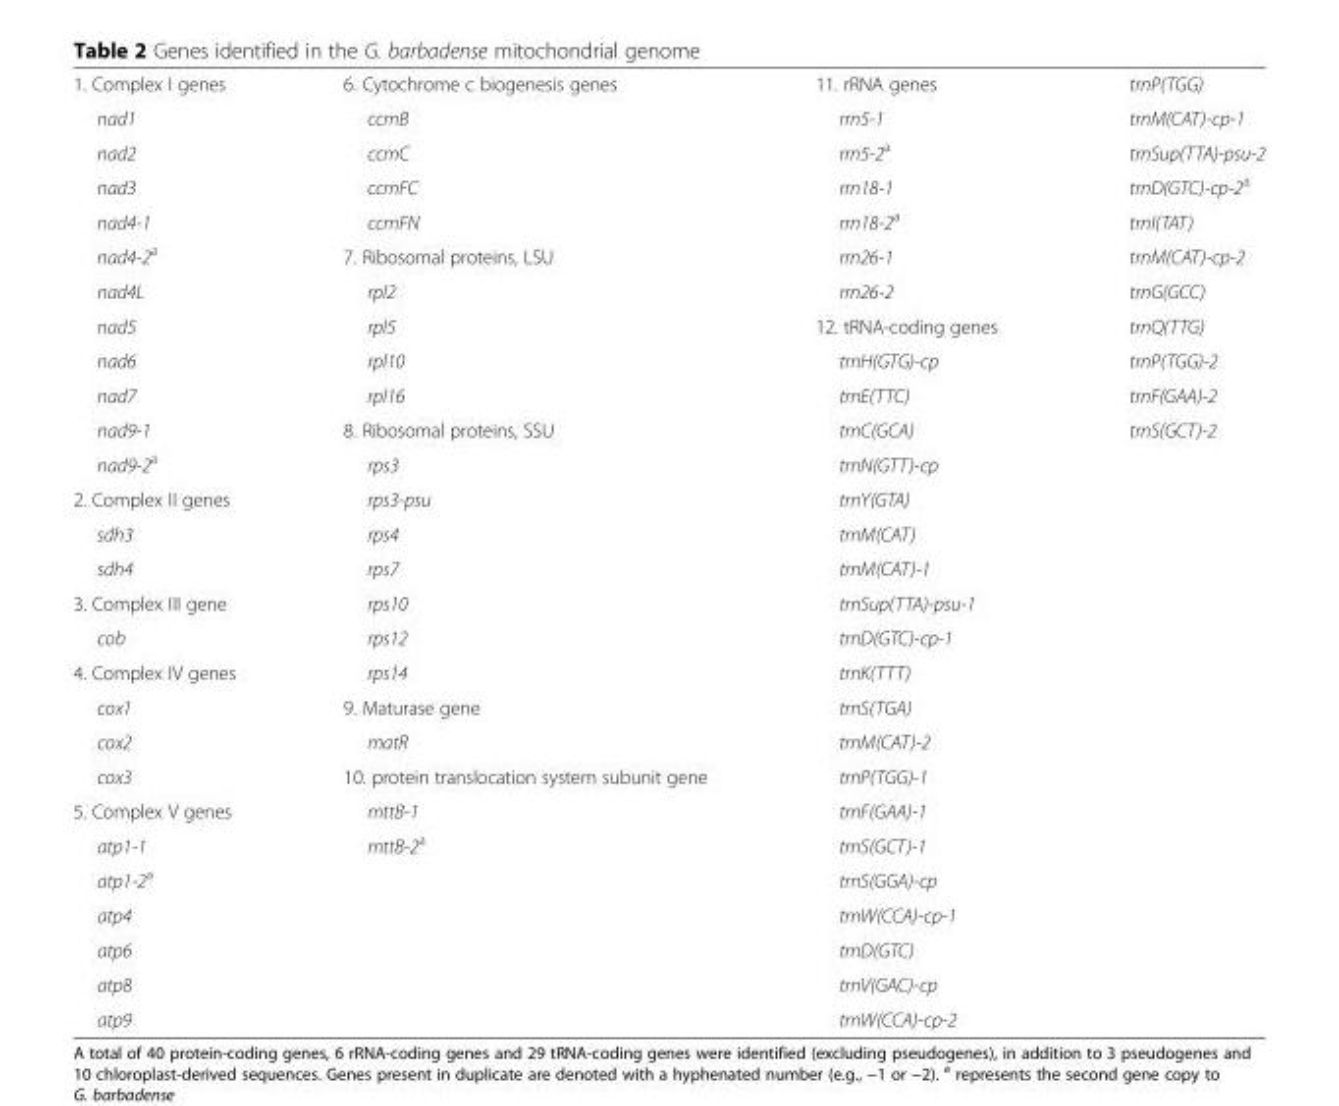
<table><tbody><tr><td>1. Complex I genes</td><td>6. Cytochrome c biogenesis genes</td><td>11. rRNA genes</td><td>trnP(TGG)</td></tr><tr><td>nad1</td><td>ccmB</td><td>rrn5-1</td><td>trnM(CAT)-cp-1</td></tr><tr><td>nad2</td><td>ccmC</td><td>rrn5-2<sup>a</sup></td><td>trnSup(TTA)-psu-2</td></tr><tr><td>nad3</td><td>ccmFC</td><td>rrn18-1</td><td>trnD(GTC)-cp-2<sup>a</sup></td></tr><tr><td>nad4-1</td><td>ccmFN</td><td>rrn18-2<sup>a</sup></td><td>trnI(TAT)</td></tr><tr><td>nad4-2<sup>a</sup></td><td>7. Ribosomal proteins, LSU</td><td>rrn26-1</td><td>trnM(CAT)-cp-2</td></tr><tr><td>nad4L</td><td>rpl2</td><td>rrn26-2</td><td>trnG(GCC)</td></tr><tr><td>nad5</td><td>rpl5</td><td>12. tRNA-coding genes</td><td>trnQ(TTG)</td></tr><tr><td>nad6</td><td>rpl10</td><td>trnH(GTG)-cp</td><td>trnP(TGG)-2</td></tr><tr><td>nad7</td><td>rpl16</td><td>trnE(TTC)</td><td>trnF(GAA)-2</td></tr><tr><td>nad9-1</td><td>8. Ribosomal proteins, SSU</td><td>trnC(GCA)</td><td>trnS(GCT)-2</td></tr><tr><td>nad9-2<sup>a</sup></td><td>rps3</td><td>trnN(GTT)-cp</td><td></td></tr><tr><td>2. Complex II genes</td><td>rps3-psu</td><td>trnY(GTA)</td><td></td></tr><tr><td>sdh3</td><td>rps4</td><td>trnM(CAT)</td><td></td></tr><tr><td>sdh4</td><td>rps7</td><td>trnM(CAT)-1</td><td></td></tr><tr><td>3. Complex III gene</td><td>rps10</td><td>trnSup(TTA)-psu-1</td><td></td></tr><tr><td>cob</td><td>rps12</td><td>trnD(GTC)-cp-1</td><td></td></tr><tr><td>4. Complex IV genes</td><td>rps14</td><td>trnK(TTT)</td><td></td></tr><tr><td>cox1</td><td>9. Maturase gene</td><td>trnS(TGA)</td><td></td></tr><tr><td>cox2</td><td>matR</td><td>trnM(CAT)-2</td><td></td></tr><tr><td>cox3</td><td>10. protein translocation system subunit gene</td><td>trnP(TGG)-1</td><td></td></tr><tr><td>5. Complex V genes</td><td>mttB-1</td><td>trnF(GAA)-1</td><td></td></tr><tr><td>atp1-1</td><td>mttB-2<sup>a</sup></td><td>trnS(GCT)-1</td><td></td></tr><tr><td>atp1-2<sup>a</sup></td><td></td><td>trnS(GGA)-cp</td><td></td></tr><tr><td>atp4</td><td></td><td>trnW(CCA)-cp-1</td><td></td></tr><tr><td>atp6</td><td></td><td>trnD(GTC)</td><td></td></tr><tr><td>atp8</td><td></td><td>trnV(GAC)-cp</td><td></td></tr><tr><td>atp9</td><td></td><td>trnW(CCA)-cp-2</td><td></td></tr></tbody></table>